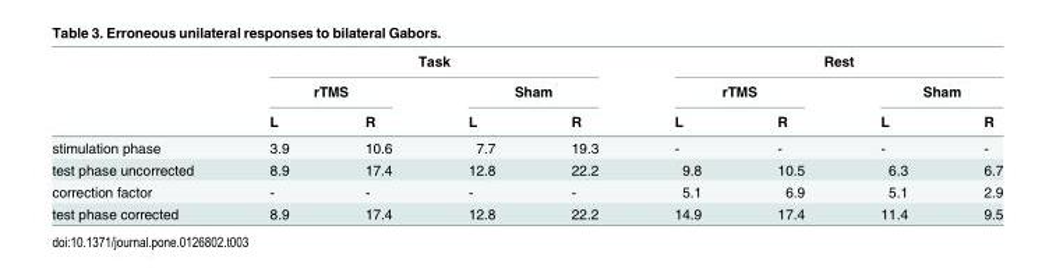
<table><thead><tr><td rowspan="3"></td><td colspan="4">Task</td><td colspan="4">Rest</td></tr><tr><td colspan="2">rTMS</td><td colspan="2">Sham</td><td colspan="2">rTMS</td><td colspan="2">Sham</td></tr><tr><td>L</td><td>R</td><td>L</td><td>R</td><td>L</td><td>R</td><td>L</td><td>R</td></tr></thead><tbody><tr><td>stimulation phase</td><td>3.9</td><td>10.6</td><td>7.7</td><td>19.3</td><td>-</td><td>-</td><td>-</td><td>-</td></tr><tr><td>test phase uncorrected</td><td>8.9</td><td>17.4</td><td>12.8</td><td>22.2</td><td>9.8</td><td>10.5</td><td>6.3</td><td>6.7</td></tr><tr><td>correction factor</td><td>-</td><td>-</td><td>-</td><td>-</td><td>5.1</td><td>6.9</td><td>5.1</td><td>2.9</td></tr><tr><td>test phase corrected</td><td>8.9</td><td>17.4</td><td>12.8</td><td>22.2</td><td>14.9</td><td>17.4</td><td>11.4</td><td>9.5</td></tr></tbody></table>